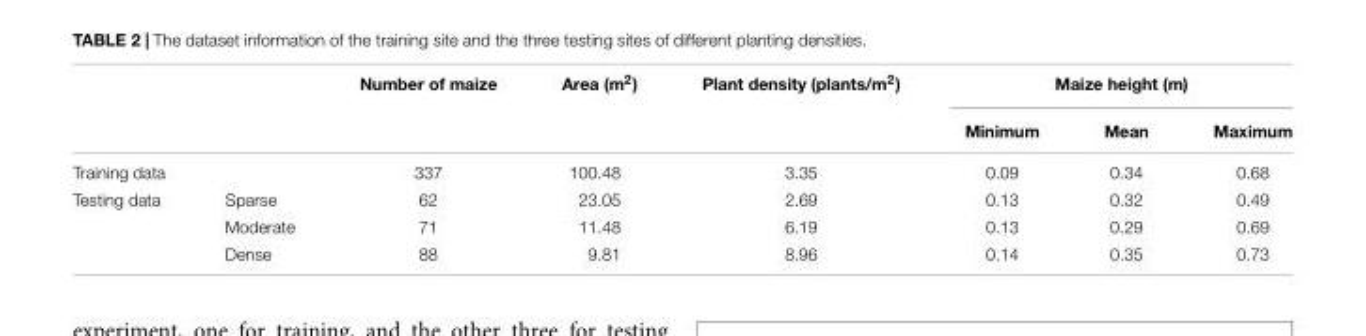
<table><thead><tr><td rowspan="2"></td><td rowspan="2"></td><td rowspan="2">Number of maize</td><td rowspan="2">Area (m<sup>2</sup>)</td><td rowspan="2">Plant density (plants/m<sup>2</sup>)</td><td colspan="3">Maize height (m)</td></tr><tr><td>Minimum</td><td>Mean</td><td>Maximum</td></tr></thead><tbody><tr><td colspan="2">Training data</td><td>337</td><td>100.48</td><td>3.35</td><td>0.09</td><td>0.34</td><td>0.68</td></tr><tr><td rowspan="3">Testing data</td><td>Sparse</td><td>62</td><td>23.05</td><td>2.69</td><td>0.13</td><td>0.32</td><td>0.49</td></tr><tr><td>Moderate</td><td>71</td><td>11.48</td><td>6.19</td><td>0.13</td><td>0.29</td><td>0.69</td></tr><tr><td>Dense</td><td>88</td><td>9.81</td><td>8.96</td><td>0.14</td><td>0.35</td><td>0.73</td></tr></tbody></table>